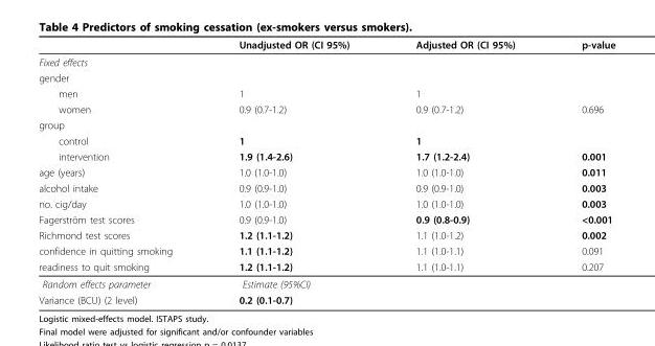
<table><thead><tr><td></td><td>Unadjusted OR (CI 95%)</td><td>Adjusted OR (CI 95%)</td><td>p-value</td></tr></thead><tbody><tr><td colspan="4">Fixed effects</td></tr><tr><td colspan="4">gender</td></tr><tr><td>men</td><td>1</td><td>1</td><td></td></tr><tr><td>women</td><td>0.9 (0.7-1.2)</td><td>0.9 (0.7-1.2)</td><td>0.696</td></tr><tr><td colspan="4">group</td></tr><tr><td>control</td><td>1</td><td>1</td><td></td></tr><tr><td>intervention</td><td>1.9 (1.4-2.6)</td><td>1.7 (1.2-2.4)</td><td>0.001</td></tr><tr><td>age (years)</td><td>1.0 (1.0-1.0)</td><td>1.0 (1.0-1.0)</td><td>0.011</td></tr><tr><td>alcohol intake</td><td>0.9 (0.9-1.0)</td><td>0.9 (0.9-1.0)</td><td>0.003</td></tr><tr><td>no. cig/day</td><td>1.0 (1.0-1.0)</td><td>1.0 (1.0-1.0)</td><td>0.003</td></tr><tr><td>Fagerström test scores</td><td>0.9 (0.9-1.0)</td><td>0.9 (0.8-0.9)</td><td>&lt;0.001</td></tr><tr><td>Richmond test scores</td><td>1.2 (1.1-1.2)</td><td>1.1 (1.0-1.2)</td><td>0.002</td></tr><tr><td>confidence in quitting smoking</td><td>1.1 (1.1-1.2)</td><td>1.1 (1.0-1.1)</td><td>0.091</td></tr><tr><td>readiness to quit smoking</td><td>1.2 (1.1-1.2)</td><td>1.1 (1.0-1.1)</td><td>0.207</td></tr><tr><td>Random effects parameter</td><td>Estimate (95%CI)</td><td></td><td></td></tr><tr><td>Variance (BCU) (2 level)</td><td>0.2 (0.1-0.7)</td><td></td><td></td></tr></tbody></table>